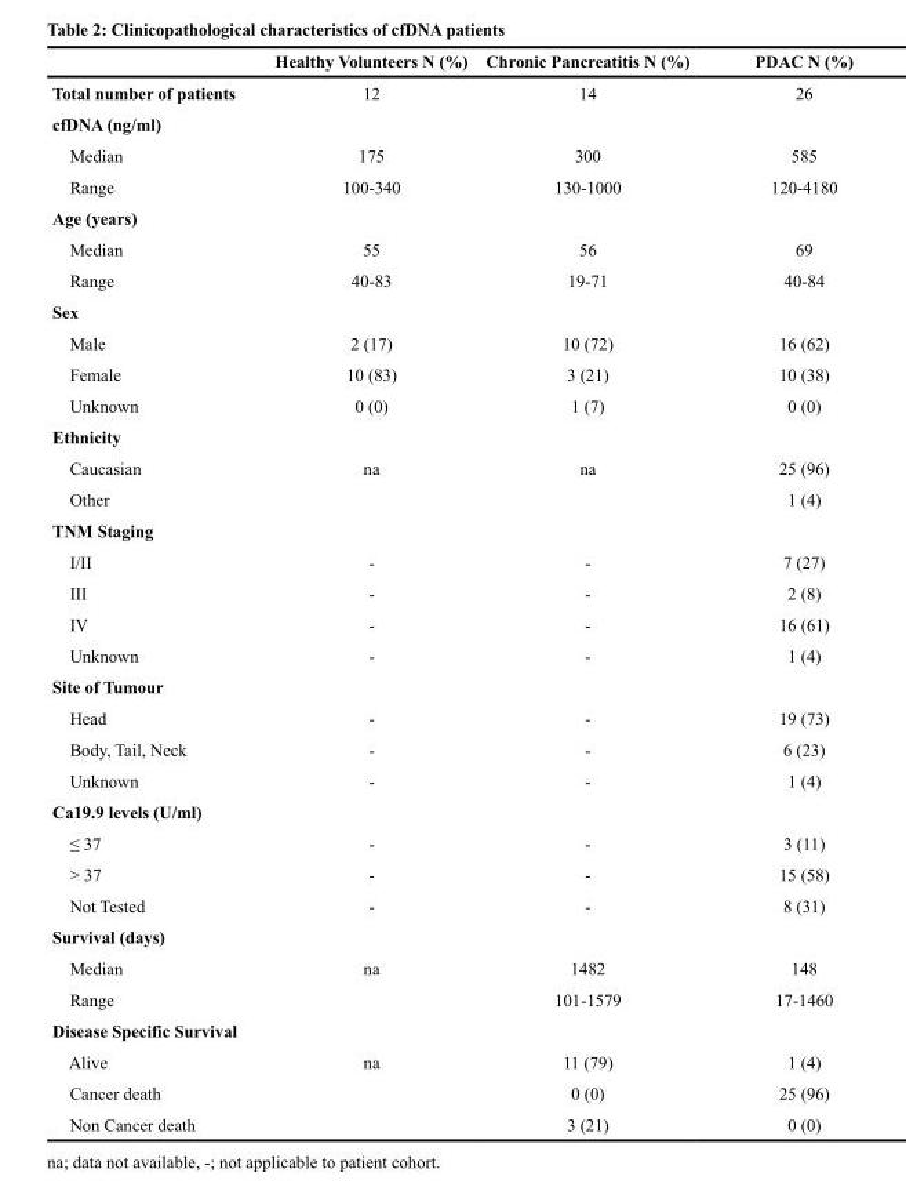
<table><thead><tr><td></td><td>Healthy Volunteers N (%)</td><td>Chronic Pancreatitis N (%)</td><td>PDAC N (%)</td></tr></thead><tbody><tr><td>Total number of patients</td><td>12</td><td>14</td><td>26</td></tr><tr><td colspan="4">cfDNA (ng/ml)</td></tr><tr><td>Median</td><td>175</td><td>300</td><td>585</td></tr><tr><td>Range</td><td>100-340</td><td>130-1000</td><td>120-4180</td></tr><tr><td colspan="4">Age (years)</td></tr><tr><td>Median</td><td>55</td><td>56</td><td>69</td></tr><tr><td>Range</td><td>40-83</td><td>19-71</td><td>40-84</td></tr><tr><td colspan="4">Sex</td></tr><tr><td>Male</td><td>2 (17)</td><td>10 (72)</td><td>16 (62)</td></tr><tr><td>Female</td><td>10 (83)</td><td>3 (21)</td><td>10 (38)</td></tr><tr><td>Unknown</td><td>0 (0)</td><td>1 (7)</td><td>0 (0)</td></tr><tr><td colspan="4">Ethnicity</td></tr><tr><td>Caucasian</td><td>na</td><td>na</td><td>25 (96)</td></tr><tr><td>Other</td><td></td><td></td><td>1 (4)</td></tr><tr><td colspan="4">TNM Staging</td></tr><tr><td>I/II</td><td>-</td><td>-</td><td>7 (27)</td></tr><tr><td>III</td><td>-</td><td>-</td><td>2 (8)</td></tr><tr><td>IV</td><td>-</td><td>-</td><td>16 (61)</td></tr><tr><td>Unknown</td><td>-</td><td>-</td><td>1 (4)</td></tr><tr><td colspan="4">Site of Tumour</td></tr><tr><td>Head</td><td>-</td><td>-</td><td>19 (73)</td></tr><tr><td>Body, Tail, Neck</td><td>-</td><td>-</td><td>6 (23)</td></tr><tr><td>Unknown</td><td>-</td><td>-</td><td>1 (4)</td></tr><tr><td colspan="4">Ca19.9 levels (U/ml)</td></tr><tr><td>≤ 37</td><td>-</td><td>-</td><td>3 (11)</td></tr><tr><td>&gt; 37</td><td>-</td><td>-</td><td>15 (58)</td></tr><tr><td>Not Tested</td><td>-</td><td>-</td><td>8 (31)</td></tr><tr><td colspan="4">Survival (days)</td></tr><tr><td>Median</td><td>na</td><td>1482</td><td>148</td></tr><tr><td>Range</td><td></td><td>101-1579</td><td>17-1460</td></tr><tr><td colspan="4">Disease Specific Survival</td></tr><tr><td>Alive</td><td>na</td><td>11 (79)</td><td>1 (4)</td></tr><tr><td>Cancer death</td><td></td><td>0 (0)</td><td>25 (96)</td></tr><tr><td>Non Cancer death</td><td></td><td>3 (21)</td><td>0 (0)</td></tr></tbody></table>